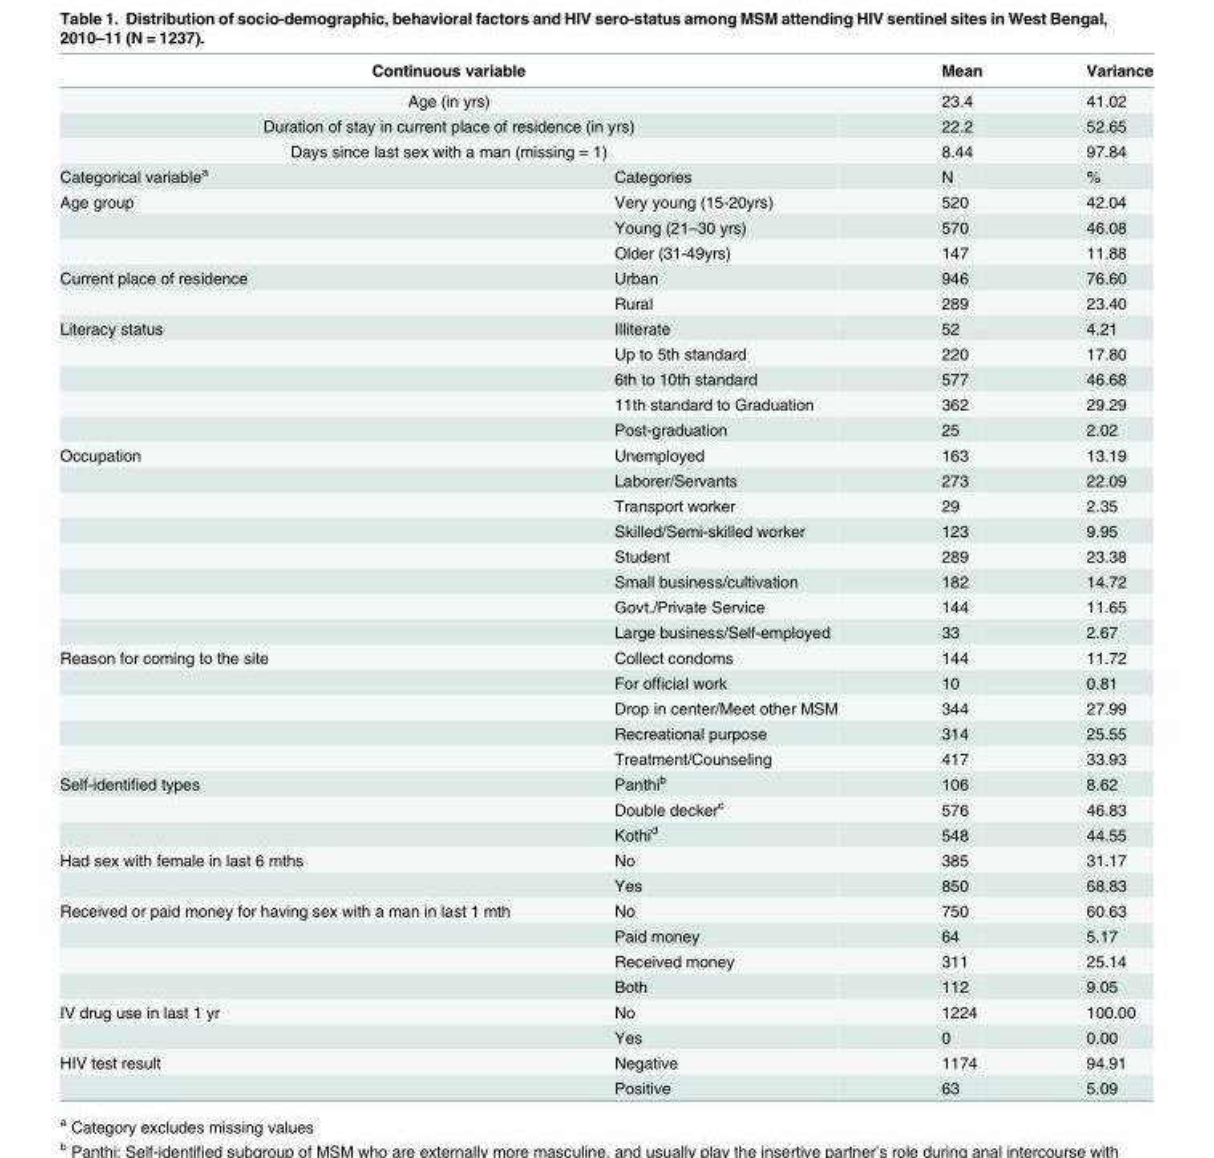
<table><thead><tr><td colspan="2">Continuous variable</td><td>Mean</td><td>Variance</td></tr></thead><tbody><tr><td colspan="2">Age (in yrs)</td><td>23.4</td><td>41.02</td></tr><tr><td colspan="2">Duration of stay in current place of residence (in yrs)</td><td>22.2</td><td>52.65</td></tr><tr><td colspan="2">Days since last sex with a man (missing = 1)</td><td>8.44</td><td>97.84</td></tr><tr><td>Categorical variable<sup>a</sup></td><td>Categories</td><td>N</td><td>%</td></tr><tr><td rowspan="3">Age group</td><td>Very young (15-20yrs)</td><td>520</td><td>42.04</td></tr><tr><td>Young (21–30 yrs)</td><td>570</td><td>46.08</td></tr><tr><td>Older (31-49yrs)</td><td>147</td><td>11.88</td></tr><tr><td rowspan="2">Current place of residence</td><td>Urban</td><td>946</td><td>76.60</td></tr><tr><td>Rural</td><td>289</td><td>23.40</td></tr><tr><td rowspan="5">Literacy status</td><td>Illiterate</td><td>52</td><td>4.21</td></tr><tr><td>Up to 5th standard</td><td>220</td><td>17.80</td></tr><tr><td>6th to 10th standard</td><td>577</td><td>46.68</td></tr><tr><td>11th standard to Graduation</td><td>362</td><td>29.29</td></tr><tr><td>Post-graduation</td><td>25</td><td>2.02</td></tr><tr><td rowspan="8">Occupation</td><td>Unemployed</td><td>163</td><td>13.19</td></tr><tr><td>Laborer/Servants</td><td>273</td><td>22.09</td></tr><tr><td>Transport worker</td><td>29</td><td>2.35</td></tr><tr><td>Skilled/Semi-skilled worker</td><td>123</td><td>9.95</td></tr><tr><td>Student</td><td>289</td><td>23.38</td></tr><tr><td>Small business/cultivation</td><td>182</td><td>14.72</td></tr><tr><td>Govt./Private Service</td><td>144</td><td>11.65</td></tr><tr><td>Large business/Self-employed</td><td>33</td><td>2.67</td></tr><tr><td rowspan="5">Reason for coming to the site</td><td>Collect condoms</td><td>144</td><td>11.72</td></tr><tr><td>For official work</td><td>10</td><td>0.81</td></tr><tr><td>Drop in center/Meet other MSM</td><td>344</td><td>27.99</td></tr><tr><td>Recreational purpose</td><td>314</td><td>25.55</td></tr><tr><td>Treatment/Counseling</td><td>417</td><td>33.93</td></tr><tr><td rowspan="3">Self-identified types</td><td>Panthi<sup>b</sup></td><td>106</td><td>8.62</td></tr><tr><td>Double decker<sup>c</sup></td><td>576</td><td>46.83</td></tr><tr><td>Kothi<sup>d</sup></td><td>548</td><td>44.55</td></tr><tr><td rowspan="2">Had sex with female in last 6 mths</td><td>No</td><td>385</td><td>31.17</td></tr><tr><td>Yes</td><td>850</td><td>68.83</td></tr><tr><td rowspan="4">Received or paid money for having sex with a man in last 1 mth</td><td>No</td><td>750</td><td>60.63</td></tr><tr><td>Paid money</td><td>64</td><td>5.17</td></tr><tr><td>Received money</td><td>311</td><td>25.14</td></tr><tr><td>Both</td><td>112</td><td>9.05</td></tr><tr><td rowspan="2">IV drug use in last 1 yr</td><td>No</td><td>1224</td><td>100.00</td></tr><tr><td>Yes</td><td>0</td><td>0.00</td></tr><tr><td rowspan="2">HIV test result</td><td>Negative</td><td>1174</td><td>94.91</td></tr><tr><td>Positive</td><td>63</td><td>5.09</td></tr></tbody></table>